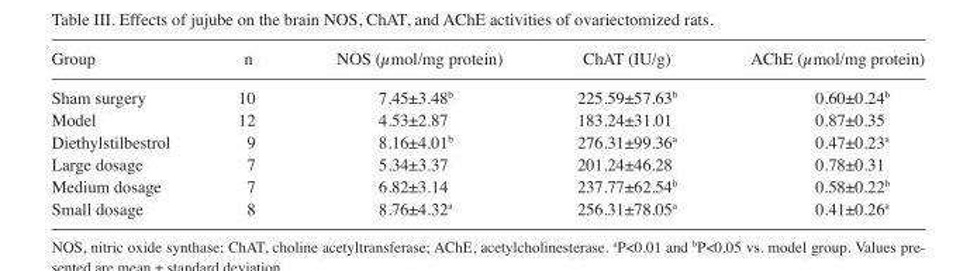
<table><thead><tr><td>Group</td><td>n</td><td>NOS (µmol/mg protein)</td><td>ChAT (IU/g)</td><td>AChE (µmol/mg protein)</td></tr></thead><tbody><tr><td>Sham surgery</td><td>10</td><td>7.45±3.48<sup>b</sup></td><td>225.59±57.63<sup>b</sup></td><td>0.60±0.24<sup>b</sup></td></tr><tr><td>Model</td><td>12</td><td>4.53±2.87</td><td>183.24±31.01</td><td>0.87±0.35</td></tr><tr><td>Diethylstilbestrol</td><td>9</td><td>8.16±4.01<sup>b</sup></td><td>276.31±99.36<sup>a</sup></td><td>0.47±0.23<sup>a</sup></td></tr><tr><td>Large dosage</td><td>7</td><td>5.34±3.37</td><td>201.24±46.28</td><td>0.78±0.31</td></tr><tr><td>Medium dosage</td><td>7</td><td>6.82±3.14</td><td>237.77±62.54<sup>b</sup></td><td>0.58±0.22<sup>b</sup></td></tr><tr><td>Small dosage</td><td>8</td><td>8.76±4.32<sup>a</sup></td><td>256.31±78.05<sup>a</sup></td><td>0.41±0.26<sup>a</sup></td></tr></tbody></table>